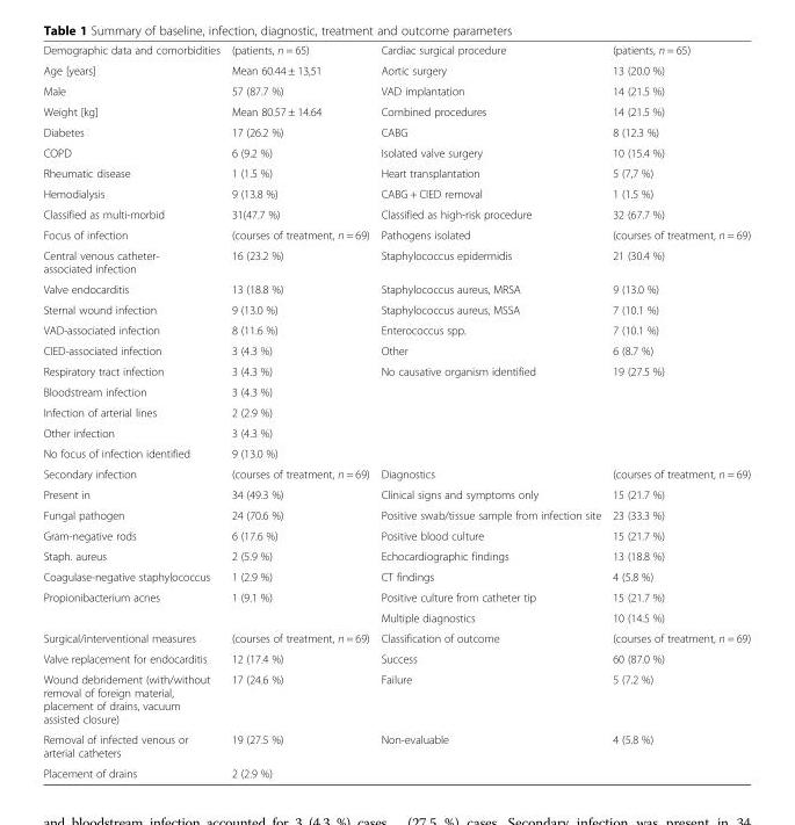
<table><tbody><tr><td>Demographic data and comorbidities</td><td>(patients, n = 65)</td><td>Cardiac surgical procedure</td><td>(patients, n = 65)</td></tr><tr><td>Age [years]</td><td>Mean 60.44 ± 13,51</td><td>Aortic surgery</td><td>13 (20.0 %)</td></tr><tr><td>Male</td><td>57 (87.7 %)</td><td>VAD implantation</td><td>14 (21.5 %)</td></tr><tr><td>Weight [kg]</td><td>Mean 80.57 ± 14.64</td><td>Combined procedures</td><td>14 (21.5 %)</td></tr><tr><td>Diabetes</td><td>17 (26.2 %)</td><td>CABG</td><td>8 (12.3 %)</td></tr><tr><td>COPD</td><td>6 (9.2 %)</td><td>Isolated valve surgery</td><td>10 (15.4 %)</td></tr><tr><td>Rheumatic disease</td><td>1 (1.5 %)</td><td>Heart transplantation</td><td>5 (7,7 %)</td></tr><tr><td>Hemodialysis</td><td>9 (13.8 %)</td><td>CABG + CIED removal</td><td>1 (1.5 %)</td></tr><tr><td>Classified as multi-morbid</td><td>31(47.7 %)</td><td>Classified as high-risk procedure</td><td>32 (67.7 %)</td></tr><tr><td>Focus of infection</td><td>(courses of treatment, n = 69)</td><td>Pathogens isolated</td><td>(courses of treatment, n = 69)</td></tr><tr><td>Central venous catheter- associated infection</td><td>16 (23.2 %)</td><td>Staphylococcus epidermidis</td><td>21 (30.4 %)</td></tr><tr><td>Valve endocarditis</td><td>13 (18.8 %)</td><td>Staphylococcus aureus, MRSA</td><td>9 (13.0 %)</td></tr><tr><td>Sternal wound infection</td><td>9 (13.0 %)</td><td>Staphylococcus aureus, MSSA</td><td>7 (10.1 %)</td></tr><tr><td>VAD-associated infection</td><td>8 (11.6 %)</td><td>Enterococcus spp.</td><td>7 (10.1 %)</td></tr><tr><td>CIED-associated infection</td><td>3 (4.3 %)</td><td>Other</td><td>6 (8.7 %)</td></tr><tr><td>Respiratory tract infection</td><td>3 (4.3 %)</td><td>No causative organism identified</td><td>19 (27.5 %)</td></tr><tr><td>Bloodstream infection</td><td>3 (4.3 %)</td><td></td><td></td></tr><tr><td>Infection of arterial lines</td><td>2 (2.9 %)</td><td></td><td></td></tr><tr><td>Other infection</td><td>3 (4.3 %)</td><td></td><td></td></tr><tr><td>No focus of infection identified</td><td>9 (13.0 %)</td><td></td><td></td></tr><tr><td>Secondary infection</td><td>(courses of treatment, n = 69)</td><td>Diagnostics</td><td>(courses of treatment, n = 69)</td></tr><tr><td>Present in</td><td>34 (49.3 %)</td><td>Clinical signs and symptoms only</td><td>15 (21.7 %)</td></tr><tr><td>Fungal pathogen</td><td>24 (70.6 %)</td><td>Positive swab/tissue sample from infection site</td><td>23 (33.3 %)</td></tr><tr><td>Gram-negative rods</td><td>6 (17.6 %)</td><td>Positive blood culture</td><td>15 (21.7 %)</td></tr><tr><td>Staph. aureus</td><td>2 (5.9 %)</td><td>Echocardiographic findings</td><td>13 (18.8 %)</td></tr><tr><td>Coagulase-negative staphylococcus</td><td>1 (2.9 %)</td><td>CT findings</td><td>4 (5.8 %)</td></tr><tr><td rowspan="2">Propionibacterium acnes</td><td>1 (9.1 %)</td><td>Positive culture from catheter tip</td><td>15 (21.7 %)</td></tr><tr><td></td><td>Multiple diagnostics</td><td>10 (14.5 %)</td></tr><tr><td>Surgical/interventional measures</td><td>(courses of treatment, n = 69)</td><td>Classification of outcome</td><td>(courses of treatment, n = 69)</td></tr><tr><td>Valve replacement for endocarditis</td><td>12 (17.4 %)</td><td>Success</td><td>60 (87.0 %)</td></tr><tr><td>Wound debridement (with/without removal of foreign material, placement of drains, vacuum assisted closure)</td><td>17 (24.6 %)</td><td>Failure</td><td>5 (7.2 %)</td></tr><tr><td>Removal of infected venous or arterial catheters</td><td>19 (27.5 %)</td><td>Non-evaluable</td><td>4 (5.8 %)</td></tr><tr><td>Placement of drains</td><td>2 (2.9 %)</td><td></td><td></td></tr></tbody></table>